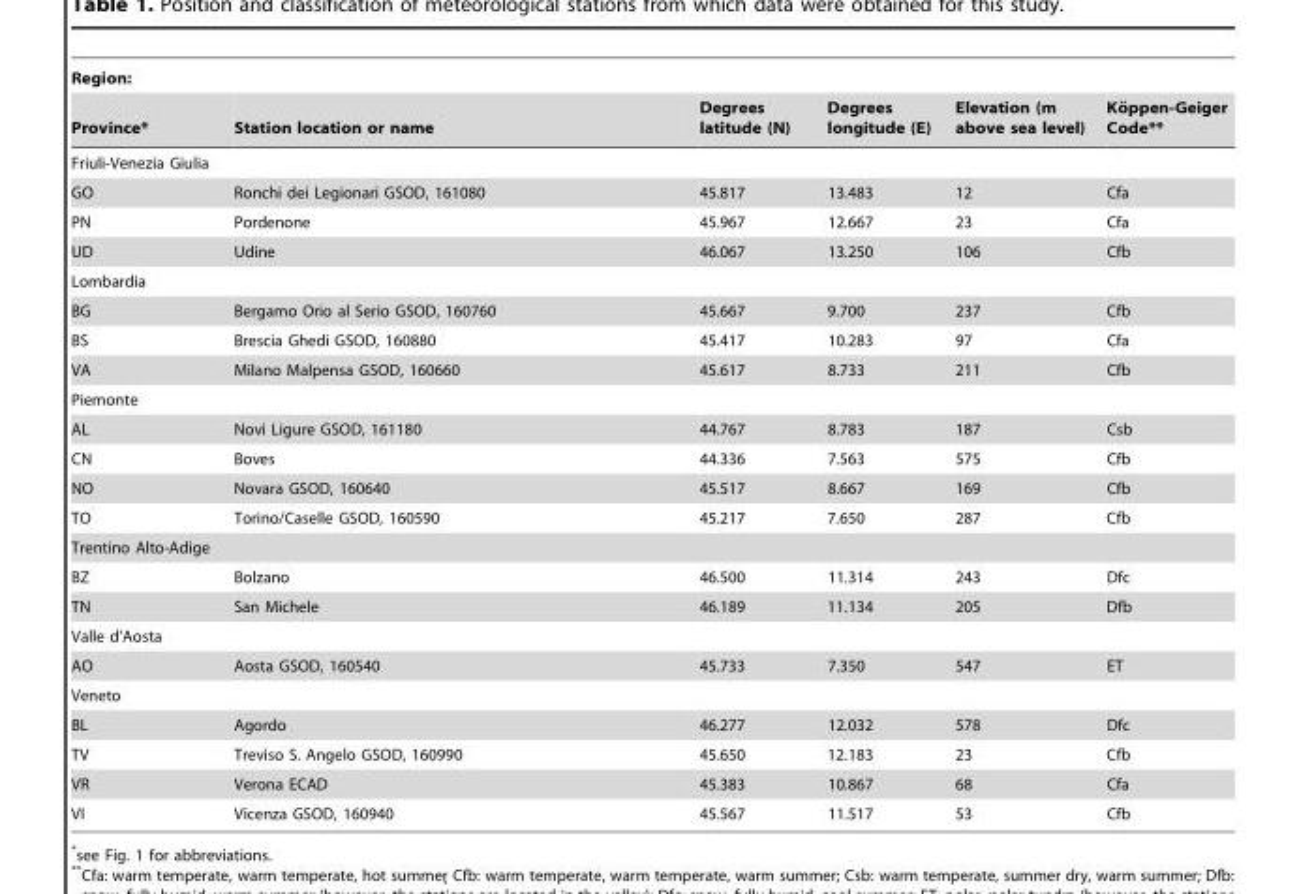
<table><thead><tr><td rowspan="2">Region: Province*</td><td rowspan="2">Station location or name</td><td rowspan="2">Degrees latitude (N)</td><td rowspan="2">Degrees longitude (E)</td><td rowspan="2">Elevation (m above sea level)</td><td rowspan="2">Ko¨ ppen-Geiger Code**</td></tr><tr></tr></thead><tbody><tr><td colspan="6">Friuli-Venezia Giulia</td></tr><tr><td>GO</td><td>Ronchi dei Legionari GSOD, 161080</td><td>45.817</td><td>13.483</td><td>12</td><td>Cfa</td></tr><tr><td>PN</td><td>Pordenone</td><td>45.967</td><td>12.667</td><td>23</td><td>Cfa</td></tr><tr><td>UD</td><td>Udine</td><td>46.067</td><td>13.250</td><td>106</td><td>Cfb</td></tr><tr><td colspan="6">Lombardia</td></tr><tr><td>BG</td><td>Bergamo Orio al Serio GSOD, 160760</td><td>45.667</td><td>9.700</td><td>237</td><td>Cfb</td></tr><tr><td>BS</td><td>Brescia Ghedi GSOD, 160880</td><td>45.417</td><td>10.283</td><td>97</td><td>Cfa</td></tr><tr><td>VA</td><td>Milano Malpensa GSOD, 160660</td><td>45.617</td><td>8.733</td><td>211</td><td>Cfb</td></tr><tr><td colspan="6">Piemonte</td></tr><tr><td>AL</td><td>Novi Ligure GSOD, 161180</td><td>44.767</td><td>8.783</td><td>187</td><td>Csb</td></tr><tr><td>CN</td><td>Boves</td><td>44.336</td><td>7.563</td><td>575</td><td>Cfb</td></tr><tr><td>NO</td><td>Novara GSOD, 160640</td><td>45.517</td><td>8.667</td><td>169</td><td>Cfb</td></tr><tr><td>TO</td><td>Torino/Caselle GSOD, 160590</td><td>45.217</td><td>7.650</td><td>287</td><td>Cfb</td></tr><tr><td colspan="6">Trentino Alto-Adige</td></tr><tr><td>BZ</td><td>Bolzano</td><td>46.500</td><td>11.314</td><td>243</td><td>Dfc</td></tr><tr><td>TN</td><td>San Michele</td><td>46.189</td><td>11.134</td><td>205</td><td>Dfb</td></tr><tr><td colspan="6">Valle d’Aosta</td></tr><tr><td>AO</td><td>Aosta GSOD, 160540</td><td>45.733</td><td>7.350</td><td>547</td><td>ET</td></tr><tr><td colspan="6">Veneto</td></tr><tr><td>BL</td><td>Agordo</td><td>46.277</td><td>12.032</td><td>578</td><td>Dfc</td></tr><tr><td>TV</td><td>Treviso S. Angelo GSOD, 160990</td><td>45.650</td><td>12.183</td><td>23</td><td>Cfb</td></tr><tr><td>VR</td><td>Verona ECAD</td><td>45.383</td><td>10.867</td><td>68</td><td>Cfa</td></tr><tr><td>VI</td><td>Vicenza GSOD, 160940</td><td>45.567</td><td>11.517</td><td>53</td><td>Cfb</td></tr></tbody></table>